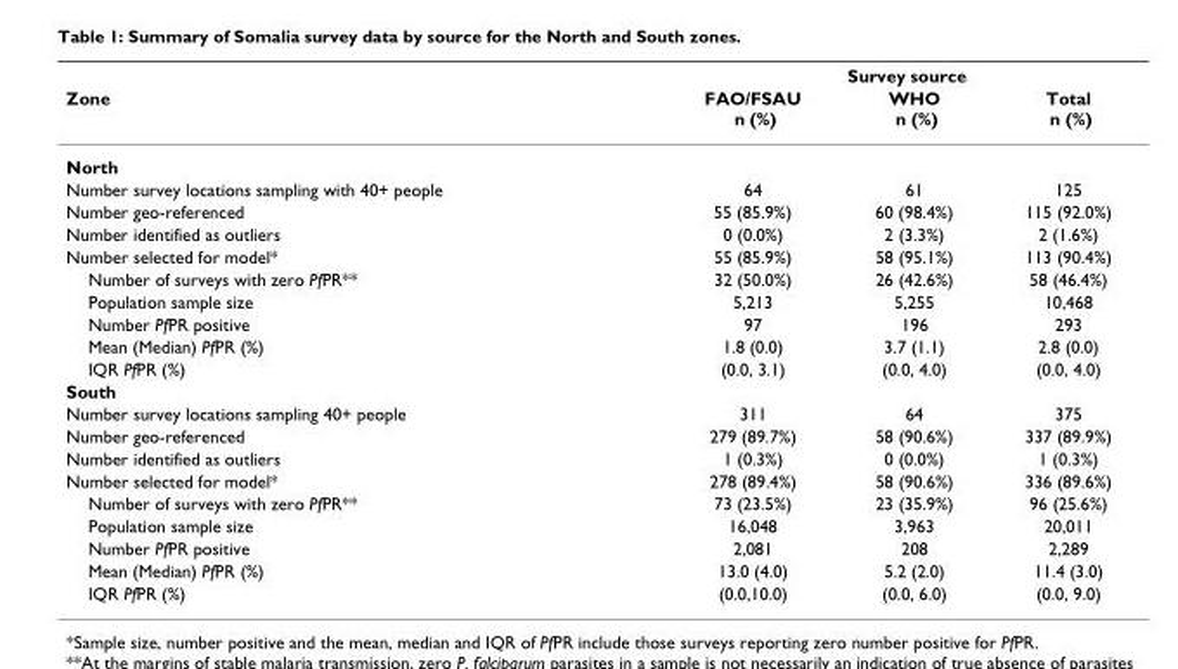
<table><thead><tr><td rowspan="2">Zone</td><td colspan="3">Survey source</td></tr><tr><td>FAO/FSAU n (%)</td><td>WHO n (%)</td><td>Total n (%)</td></tr></thead><tbody><tr><td colspan="4">North</td></tr><tr><td>Number survey locations sampling with 40+ people</td><td>64</td><td>61</td><td>125</td></tr><tr><td>Number geo-referenced</td><td>55 (85.9%)</td><td>60 (98.4%)</td><td>115 (92.0%)</td></tr><tr><td>Number identified as outliers</td><td>0 (0.0%)</td><td>2 (3.3%)</td><td>2 (1.6%)</td></tr><tr><td>Number selected for model*</td><td>55 (85.9%)</td><td>58 (95.1%)</td><td>113 (90.4%)</td></tr><tr><td>Number of surveys with zero PfPR**</td><td>32 (50.0%)</td><td>26 (42.6%)</td><td>58 (46.4%)</td></tr><tr><td>Population sample size</td><td>5,213</td><td>5,255</td><td>10,468</td></tr><tr><td>Number PfPR positive</td><td>97</td><td>196</td><td>293</td></tr><tr><td>Mean (Median) PfPR (%)</td><td>1.8 (0.0)</td><td>3.7 (1.1)</td><td>2.8 (0.0)</td></tr><tr><td>IQR PfPR (%)</td><td>(0.0, 3.1)</td><td>(0.0, 4.0)</td><td>(0.0, 4.0)</td></tr><tr><td colspan="4">South</td></tr><tr><td>Number survey locations sampling 40+ people</td><td>311</td><td>64</td><td>375</td></tr><tr><td>Number geo-referenced</td><td>279 (89.7%)</td><td>58 (90.6%)</td><td>337 (89.9%)</td></tr><tr><td>Number identified as outliers</td><td>1 (0.3%)</td><td>0 (0.0%)</td><td>1 (0.3%)</td></tr><tr><td>Number selected for model*</td><td>278 (89.4%)</td><td>58 (90.6%)</td><td>336 (89.6%)</td></tr><tr><td>Number of surveys with zero PfPR**</td><td>73 (23.5%)</td><td>23 (35.9%)</td><td>96 (25.6%)</td></tr><tr><td>Population sample size</td><td>16,048</td><td>3,963</td><td>20,011</td></tr><tr><td>Number PfPR positive</td><td>2,081</td><td>208</td><td>2,289</td></tr><tr><td>Mean (Median) PfPR (%)</td><td>13.0 (4.0)</td><td>5.2 (2.0)</td><td>11.4 (3.0)</td></tr><tr><td>IQR PfPR (%)</td><td>(0.0,10.0)</td><td>(0.0, 6.0)</td><td>(0.0, 9.0)</td></tr></tbody></table>